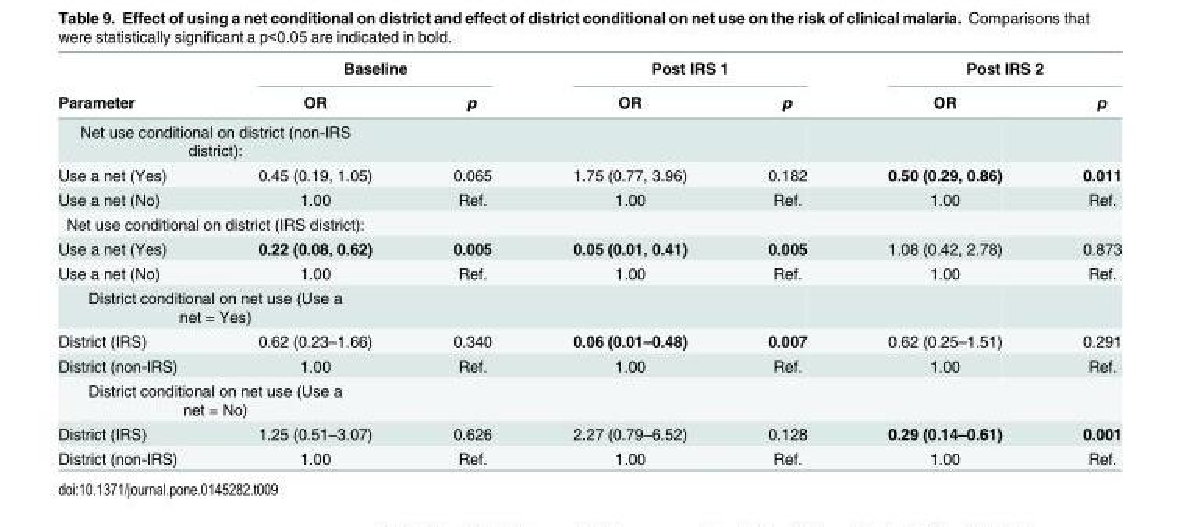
<table><thead><tr><td rowspan="2">Parameter</td><td colspan="2">Baseline</td><td colspan="2">Post IRS 1</td><td colspan="2">Post IRS 2</td></tr><tr><td>OR</td><td>p</td><td>OR</td><td>p</td><td>OR</td><td>p</td></tr></thead><tbody><tr><td colspan="7">Net use conditional on district (non-IRS district):</td></tr><tr><td>Use a net (Yes)</td><td>0.45 (0.19, 1.05)</td><td>0.065</td><td>1.75 (0.77, 3.96)</td><td>0.182</td><td>0.50 (0.29, 0.86)</td><td>0.011</td></tr><tr><td>Use a net (No)</td><td>1.00</td><td>Ref.</td><td>1.00</td><td>Ref.</td><td>1.00</td><td>Ref.</td></tr><tr><td colspan="7">Net use conditional on district (IRS district):</td></tr><tr><td>Use a net (Yes)</td><td>0.22 (0.08, 0.62)</td><td>0.005</td><td>0.05 (0.01, 0.41)</td><td>0.005</td><td>1.08 (0.42, 2.78)</td><td>0.873</td></tr><tr><td>Use a net (No)</td><td>1.00</td><td>Ref.</td><td>1.00</td><td>Ref.</td><td>1.00</td><td>Ref.</td></tr><tr><td colspan="7">District conditional on net use (Use a net = Yes)</td></tr><tr><td>District (IRS)</td><td>0.62 (0.23–1.66)</td><td>0.340</td><td>0.06 (0.01–0.48)</td><td>0.007</td><td>0.62 (0.25–1.51)</td><td>0.291</td></tr><tr><td>District (non-IRS)</td><td>1.00</td><td>Ref.</td><td>1.00</td><td>Ref.</td><td>1.00</td><td>Ref.</td></tr><tr><td colspan="7">District conditional on net use (Use a net = No)</td></tr><tr><td>District (IRS)</td><td>1.25 (0.51–3.07)</td><td>0.626</td><td>2.27 (0.79–6.52)</td><td>0.128</td><td>0.29 (0.14–0.61)</td><td>0.001</td></tr><tr><td>District (non-IRS)</td><td>1.00</td><td>Ref.</td><td>1.00</td><td>Ref.</td><td>1.00</td><td>Ref.</td></tr></tbody></table>